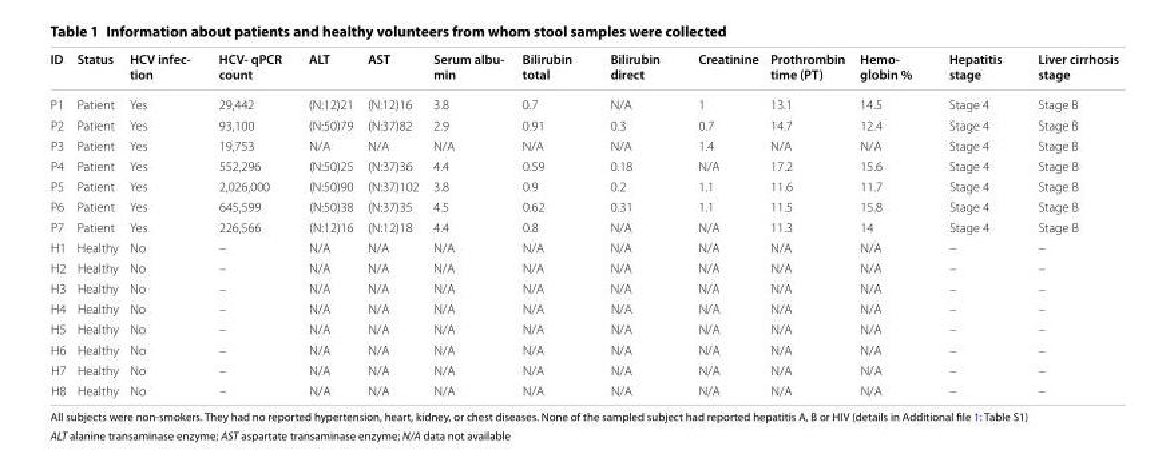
<table><thead><tr><td>ID</td><td>Status</td><td>HCV infec- tion</td><td>HCV- qPCR count</td><td>ALT</td><td>AST</td><td>Serum albu- min</td><td>Bilirubin total</td><td>Bilirubin direct</td><td>Creatinine</td><td>Prothrombin time (PT)</td><td>Hemo- globin %</td><td>Hepatitis stage</td><td>Liver cirrhosis stage</td></tr></thead><tbody><tr><td>P1</td><td>Patient</td><td>Yes</td><td>29,442</td><td>(N:12)21</td><td>(N:12)16</td><td>3.8</td><td>0.7</td><td>N/A</td><td>1</td><td>13.1</td><td>14.5</td><td>Stage 4</td><td>Stage B</td></tr><tr><td>P2</td><td>Patient</td><td>Yes</td><td>93,100</td><td>(N:50)79</td><td>(N:37)82</td><td>2.9</td><td>0.91</td><td>0.3</td><td>0.7</td><td>14.7</td><td>12.4</td><td>Stage 4</td><td>Stage B</td></tr><tr><td>P3</td><td>Patient</td><td>Yes</td><td>19,753</td><td>N/A</td><td>N/A</td><td>N/A</td><td>N/A</td><td>N/A</td><td>1.4</td><td>N/A</td><td>N/A</td><td>Stage 4</td><td>Stage B</td></tr><tr><td>P4</td><td>Patient</td><td>Yes</td><td>552,296</td><td>(N:50)25</td><td>(N:37)36</td><td>4.4</td><td>0.59</td><td>0.18</td><td>N/A</td><td>17.2</td><td>15.6</td><td>Stage 4</td><td>Stage B</td></tr><tr><td>P5</td><td>Patient</td><td>Yes</td><td>2,026,000</td><td>(N:50)90</td><td>(N:37)102</td><td>3.8</td><td>0.9</td><td>0.2</td><td>1.1</td><td>11.6</td><td>11.7</td><td>Stage 4</td><td>Stage B</td></tr><tr><td>P6</td><td>Patient</td><td>Yes</td><td>645,599</td><td>(N:50)38</td><td>(N:37)35</td><td>4.5</td><td>0.62</td><td>0.31</td><td>1.1</td><td>11.5</td><td>15.8</td><td>Stage 4</td><td>Stage B</td></tr><tr><td>P7</td><td>Patient</td><td>Yes</td><td>226,566</td><td>(N:12)16</td><td>(N:12)18</td><td>4.4</td><td>0.8</td><td>N/A</td><td>N/A</td><td>11.3</td><td>14</td><td>Stage 4</td><td>Stage B</td></tr><tr><td>H1</td><td>Healthy</td><td>No</td><td>–</td><td>N/A</td><td>N/A</td><td>N/A</td><td>N/A</td><td>N/A</td><td>N/A</td><td>N/A</td><td>N/A</td><td>–</td><td>–</td></tr><tr><td>H2</td><td>Healthy</td><td>No</td><td>–</td><td>N/A</td><td>N/A</td><td>N/A</td><td>N/A</td><td>N/A</td><td>N/A</td><td>N/A</td><td>N/A</td><td>–</td><td>–</td></tr><tr><td>H3</td><td>Healthy</td><td>No</td><td>–</td><td>N/A</td><td>N/A</td><td>N/A</td><td>N/A</td><td>N/A</td><td>N/A</td><td>N/A</td><td>N/A</td><td>–</td><td>–</td></tr><tr><td>H4</td><td>Healthy</td><td>No</td><td>–</td><td>N/A</td><td>N/A</td><td>N/A</td><td>N/A</td><td>N/A</td><td>N/A</td><td>N/A</td><td>N/A</td><td>–</td><td>–</td></tr><tr><td>H5</td><td>Healthy</td><td>No</td><td>–</td><td>N/A</td><td>N/A</td><td>N/A</td><td>N/A</td><td>N/A</td><td>N/A</td><td>N/A</td><td>N/A</td><td>–</td><td>–</td></tr><tr><td>H6</td><td>Healthy</td><td>No</td><td>–</td><td>N/A</td><td>N/A</td><td>N/A</td><td>N/A</td><td>N/A</td><td>N/A</td><td>N/A</td><td>N/A</td><td>–</td><td>–</td></tr><tr><td>H7</td><td>Healthy</td><td>No</td><td>–</td><td>N/A</td><td>N/A</td><td>N/A</td><td>N/A</td><td>N/A</td><td>N/A</td><td>N/A</td><td>N/A</td><td>–</td><td>–</td></tr><tr><td>H8</td><td>Healthy</td><td>No</td><td>–</td><td>N/A</td><td>N/A</td><td>N/A</td><td>N/A</td><td>N/A</td><td>N/A</td><td>N/A</td><td>N/A</td><td>–</td><td>–</td></tr></tbody></table>